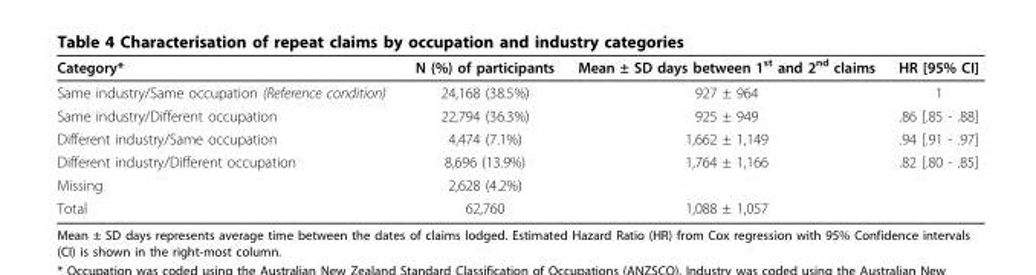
<table><thead><tr><td>Category*</td><td>N (%) of participants</td><td>Mean ± SD days between 1<sup>st</sup> and 2<sup>nd</sup> claims</td><td>HR [95% CI]</td></tr></thead><tbody><tr><td>Same industry/Same occupation (Reference condition)</td><td>24,168 (38.5%)</td><td>927 ± 964</td><td>1</td></tr><tr><td>Same industry/Different occupation</td><td>22,794 (36.3%)</td><td>925 ± 949</td><td>.86 [.85 - .88]</td></tr><tr><td>Different industry/Same occupation</td><td>4,474 (7.1%)</td><td>1,662 ± 1,149</td><td>.94 [.91 - .97]</td></tr><tr><td>Different industry/Different occupation</td><td>8,696 (13.9%)</td><td>1,764 ± 1,166</td><td>.82 [.80 - .85]</td></tr><tr><td>Missing</td><td>2,628 (4.2%)</td><td></td><td></td></tr><tr><td>Total</td><td>62,760</td><td>1,088 ± 1,057</td><td></td></tr></tbody></table>